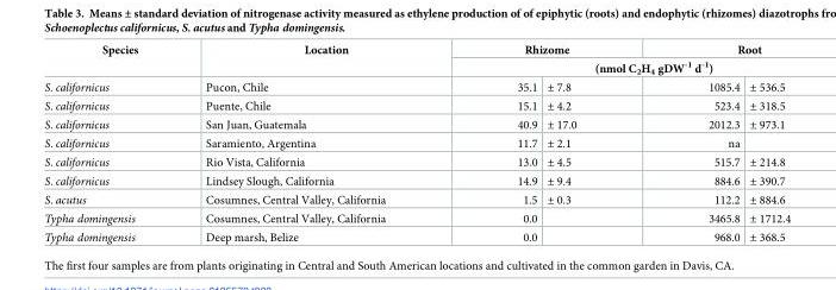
<table><thead><tr><td rowspan="3">Species S. californicus</td><td rowspan="3">Location Pucon, Chile</td><td colspan="2">Rhizome</td><td colspan="2">Root</td></tr><tr><td colspan="4">(nmol C<sub>2</sub>H<sub>4</sub> gDW<sup>-1</sup> d<sup>-1</sup>)</td></tr><tr><td>35.1</td><td>± 7.8</td><td>1085.4</td><td>± 536.5</td></tr></thead><tbody><tr><td>S. californicus</td><td>Puente, Chile</td><td>15.1</td><td>± 4.2</td><td>523.4</td><td>± 318.5</td></tr><tr><td>S. californicus</td><td>San Juan, Guatemala</td><td>40.9</td><td>± 17.0</td><td>2012.3</td><td>± 973.1</td></tr><tr><td>S. californicus</td><td>Saramiento, Argentina</td><td>11.7</td><td>± 2.1</td><td>na</td><td></td></tr><tr><td>S. californicus</td><td>Rio Vista, California</td><td>13.0</td><td>± 4.5</td><td>515.7</td><td>± 214.8</td></tr><tr><td>S. californicus</td><td>Lindsey Slough, California</td><td>14.9</td><td>± 9.4</td><td>884.6</td><td>± 390.7</td></tr><tr><td>S. acutus</td><td>Cosumnes, Central Valley, California</td><td>1.5</td><td>± 0.3</td><td>112.2</td><td>± 884.6</td></tr><tr><td>Typha domingensis</td><td>Cosumnes, Central Valley, California</td><td>0.0</td><td></td><td>3465.8</td><td>± 1712.4</td></tr><tr><td>Typha domingensis</td><td>Deep marsh, Belize</td><td>0.0</td><td></td><td>968.0</td><td>± 368.5</td></tr></tbody></table>